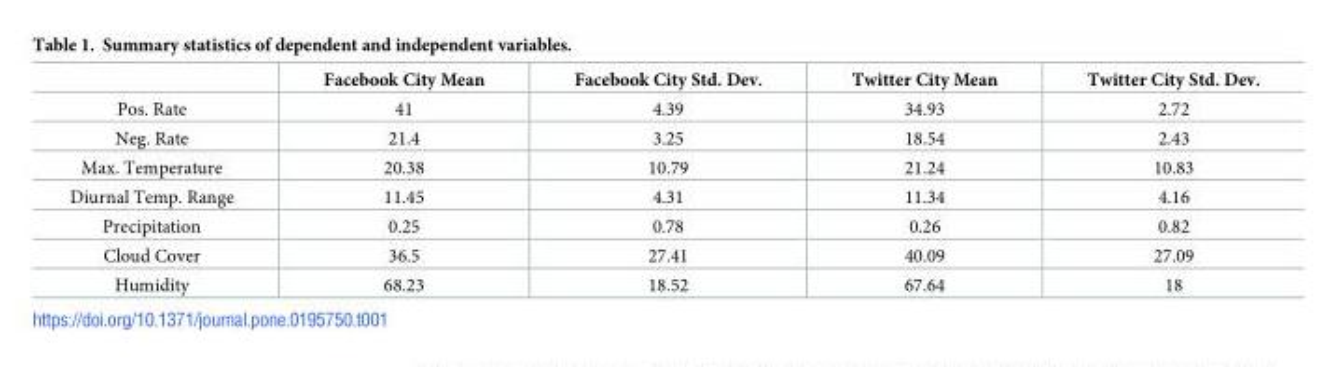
<table><thead><tr><td></td><td>Facebook City Mean</td><td>Facebook City Std. Dev.</td><td>Twitter City Mean</td><td>Twitter City Std. Dev.</td></tr></thead><tbody><tr><td>Pos. Rate</td><td>41</td><td>4.39</td><td>34.93</td><td>2.72</td></tr><tr><td>Neg. Rate</td><td>21.4</td><td>3.25</td><td>18.54</td><td>2.43</td></tr><tr><td>Max. Temperature</td><td>20.38</td><td>10.79</td><td>21.24</td><td>10.83</td></tr><tr><td>Diurnal Temp. Range</td><td>11.45</td><td>4.31</td><td>11.34</td><td>4.16</td></tr><tr><td>Precipitation</td><td>0.25</td><td>0.78</td><td>0.26</td><td>0.82</td></tr><tr><td>Cloud Cover</td><td>36.5</td><td>27.41</td><td>40.09</td><td>27.09</td></tr><tr><td>Humidity</td><td>68.23</td><td>18.52</td><td>67.64</td><td>18</td></tr></tbody></table>